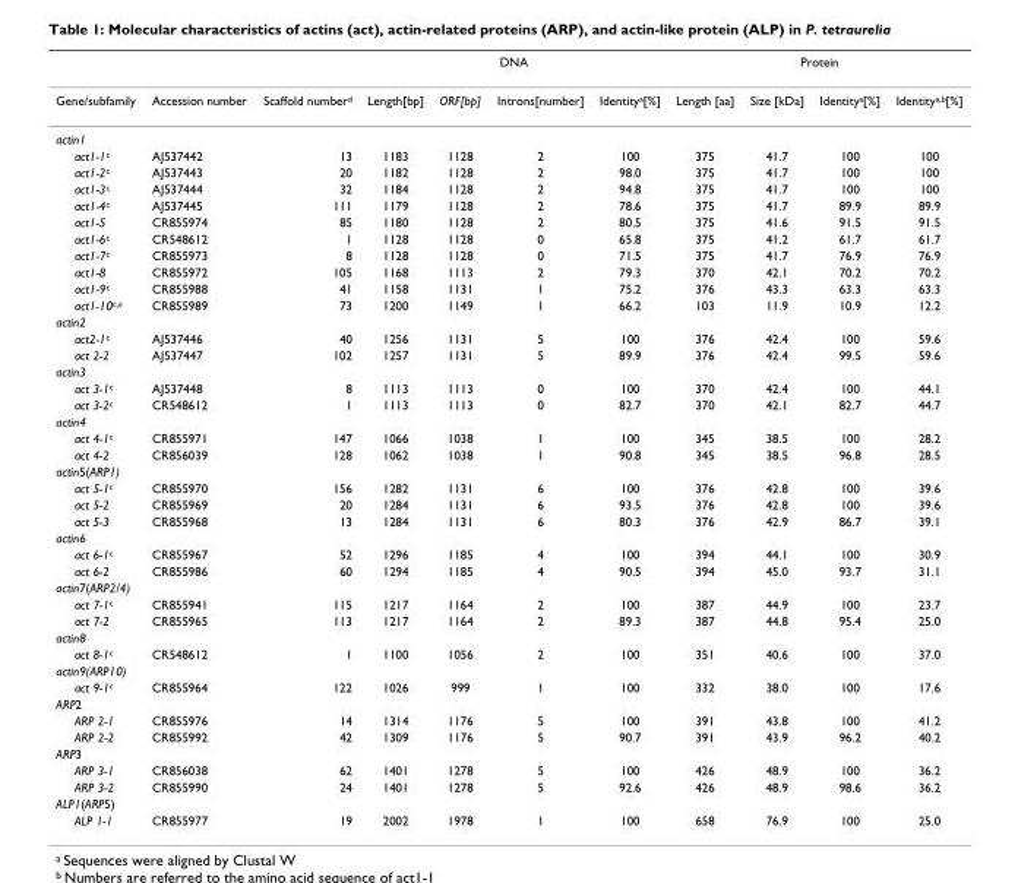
<table><thead><tr><td rowspan="2">Gene/subfamily</td><td rowspan="2">Accession number</td><td rowspan="2">Scaffold numberd</td><td colspan="4">DNA</td><td colspan="4">Protein</td></tr><tr><td>Length[bp]</td><td>ORF[bp]</td><td>Introns[number]</td><td>Identitya[%]</td><td>Length [aa]</td><td>Size [kDa]</td><td>Identitya[%]</td><td>Identitya,b[%]</td></tr></thead><tbody><tr><td colspan="11">actin1</td></tr><tr><td>act1-1c</td><td>AJ537442</td><td>13</td><td>1183</td><td>1128</td><td>2</td><td>100</td><td>375</td><td>41.7</td><td>100</td><td>100</td></tr><tr><td>act1-2c</td><td>AJ537443</td><td>20</td><td>1182</td><td>1128</td><td>2</td><td>98.0</td><td>375</td><td>41.7</td><td>100</td><td>100</td></tr><tr><td>act1-3c</td><td>AJ537444</td><td>32</td><td>1184</td><td>1128</td><td>2</td><td>94.8</td><td>375</td><td>41.7</td><td>100</td><td>100</td></tr><tr><td>act1-4c</td><td>AJ537445</td><td>111</td><td>1179</td><td>1128</td><td>2</td><td>78.6</td><td>375</td><td>41.7</td><td>89.9</td><td>89.9</td></tr><tr><td>act1-5</td><td>CR855974</td><td>85</td><td>1180</td><td>1128</td><td>2</td><td>80.5</td><td>375</td><td>41.6</td><td>91.5</td><td>91.5</td></tr><tr><td>act1-6c</td><td>CR548612</td><td>1</td><td>1128</td><td>1128</td><td>0</td><td>65.8</td><td>375</td><td>41.2</td><td>61.7</td><td>61.7</td></tr><tr><td>act1-7c</td><td>CR855973</td><td>8</td><td>1128</td><td>1128</td><td>0</td><td>71.5</td><td>375</td><td>41.7</td><td>76.9</td><td>76.9</td></tr><tr><td>act1-8</td><td>CR855972</td><td>105</td><td>1168</td><td>1113</td><td>2</td><td>79.3</td><td>370</td><td>42.1</td><td>70.2</td><td>70.2</td></tr><tr><td>act1-9c</td><td>CR855988</td><td>41</td><td>1158</td><td>1131</td><td>1</td><td>75.2</td><td>376</td><td>43.3</td><td>63.3</td><td>63.3</td></tr><tr><td>act1-10c,e</td><td>CR855989</td><td>73</td><td>1200</td><td>1149</td><td>1</td><td>66.2</td><td>103</td><td>11.9</td><td>10.9</td><td>12.2</td></tr><tr><td colspan="11">actin2</td></tr><tr><td>act2-1c</td><td>AJ537446</td><td>40</td><td>1256</td><td>1131</td><td>5</td><td>100</td><td>376</td><td>42.4</td><td>100</td><td>59.6</td></tr><tr><td>act 2-2</td><td>AJ537447</td><td>102</td><td>1257</td><td>1131</td><td>5</td><td>89.9</td><td>376</td><td>42.4</td><td>99.5</td><td>59.6</td></tr><tr><td colspan="11">actin3</td></tr><tr><td>act 3-1c</td><td>AJ537448</td><td>8</td><td>1113</td><td>1113</td><td>0</td><td>100</td><td>370</td><td>42.4</td><td>100</td><td>44.1</td></tr><tr><td>act 3-2c</td><td>CR548612</td><td>1</td><td>1113</td><td>1113</td><td>0</td><td>82.7</td><td>370</td><td>42.1</td><td>82.7</td><td>44.7</td></tr><tr><td colspan="11">actin4</td></tr><tr><td>act 4-1c</td><td>CR855971</td><td>147</td><td>1066</td><td>1038</td><td>1</td><td>100</td><td>345</td><td>38.5</td><td>100</td><td>28.2</td></tr><tr><td>act 4-2</td><td>CR856039</td><td>128</td><td>1062</td><td>1038</td><td>1</td><td>90.8</td><td>345</td><td>38.5</td><td>96.8</td><td>28.5</td></tr><tr><td colspan="11">actin5(ARP1)</td></tr><tr><td>act 5-1c</td><td>CR855970</td><td>156</td><td>1282</td><td>1131</td><td>6</td><td>100</td><td>376</td><td>42.8</td><td>100</td><td>39.6</td></tr><tr><td>act 5-2</td><td>CR855969</td><td>20</td><td>1284</td><td>1131</td><td>6</td><td>93.5</td><td>376</td><td>42.8</td><td>100</td><td>39.6</td></tr><tr><td>act 5-3</td><td>CR855968</td><td>13</td><td>1284</td><td>1131</td><td>6</td><td>80.3</td><td>376</td><td>42.9</td><td>86.7</td><td>39.1</td></tr><tr><td colspan="11">actin6</td></tr><tr><td>act 6-1c</td><td>CR855967</td><td>52</td><td>1296</td><td>1185</td><td>4</td><td>100</td><td>394</td><td>44.1</td><td>100</td><td>30.9</td></tr><tr><td>act 6-2</td><td>CR855986</td><td>60</td><td>1294</td><td>1185</td><td>4</td><td>90.5</td><td>394</td><td>45.0</td><td>93.7</td><td>31.1</td></tr><tr><td colspan="11">actin7(ARP2/4)</td></tr><tr><td>act 7-1c</td><td>CR855941</td><td>115</td><td>1217</td><td>1164</td><td>2</td><td>100</td><td>387</td><td>44.9</td><td>100</td><td>23.7</td></tr><tr><td>act 7-2</td><td>CR855965</td><td>113</td><td>1217</td><td>1164</td><td>2</td><td>89.3</td><td>387</td><td>44.8</td><td>95.4</td><td>25.0</td></tr><tr><td colspan="11">actin8</td></tr><tr><td>act 8-1c</td><td>CR548612</td><td>1</td><td>1100</td><td>1056</td><td>2</td><td>100</td><td>351</td><td>40.6</td><td>100</td><td>37.0</td></tr><tr><td colspan="11">actin9(ARP10)</td></tr><tr><td>act 9-1c</td><td>CR855964</td><td>122</td><td>1026</td><td>999</td><td>1</td><td>100</td><td>332</td><td>38.0</td><td>100</td><td>17.6</td></tr><tr><td colspan="11">ARP2</td></tr><tr><td>ARP 2-1</td><td>CR855976</td><td>14</td><td>1314</td><td>1176</td><td>5</td><td>100</td><td>391</td><td>43.8</td><td>100</td><td>41.2</td></tr><tr><td>ARP 2-2</td><td>CR855992</td><td>42</td><td>1309</td><td>1176</td><td>5</td><td>90.7</td><td>391</td><td>43.9</td><td>96.2</td><td>40.2</td></tr><tr><td colspan="11">ARP3</td></tr><tr><td>ARP 3-1</td><td>CR856038</td><td>62</td><td>1401</td><td>1278</td><td>5</td><td>100</td><td>426</td><td>48.9</td><td>100</td><td>36.2</td></tr><tr><td>ARP 3-2</td><td>CR855990</td><td>24</td><td>1401</td><td>1278</td><td>5</td><td>92.6</td><td>426</td><td>48.9</td><td>98.6</td><td>36.2</td></tr><tr><td colspan="11">ALP1(ARP5)</td></tr><tr><td>ALP 1-1</td><td>CR855977</td><td>19</td><td>2002</td><td>1978</td><td>1</td><td>100</td><td>658</td><td>76.9</td><td>100</td><td>25.0</td></tr></tbody></table>